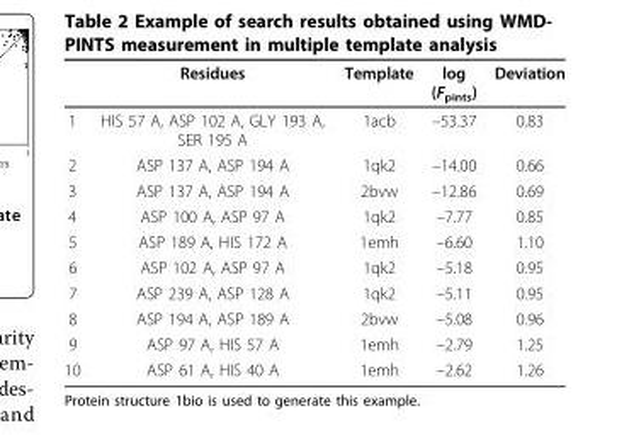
<table><thead><tr><td></td><td>Residues</td><td>Template</td><td>log (F<sub>pints</sub>)</td><td>Deviation</td></tr></thead><tbody><tr><td>1</td><td>HIS 57 A, ASP 102 A, GLY 193 A, SER 195 A</td><td>1acb</td><td>–53.37</td><td>0.83</td></tr><tr><td>2</td><td>ASP 137 A, ASP 194 A</td><td>1qk2</td><td>–14.00</td><td>0.66</td></tr><tr><td>3</td><td>ASP 137 A, ASP 194 A</td><td>2bvw</td><td>–12.86</td><td>0.69</td></tr><tr><td>4</td><td>ASP 100 A, ASP 97 A</td><td>1qk2</td><td>–7.77</td><td>0.85</td></tr><tr><td>5</td><td>ASP 189 A, HIS 172 A</td><td>1emh</td><td>–6.60</td><td>1.10</td></tr><tr><td>6</td><td>ASP 102 A, ASP 97 A</td><td>1qk2</td><td>–5.18</td><td>0.95</td></tr><tr><td>7</td><td>ASP 239 A, ASP 128 A</td><td>1qk2</td><td>–5.11</td><td>0.95</td></tr><tr><td>8</td><td>ASP 194 A, ASP 189 A</td><td>2bvw</td><td>–5.08</td><td>0.96</td></tr><tr><td>9</td><td>ASP 97 A, HIS 57 A</td><td>1emh</td><td>–2.79</td><td>1.25</td></tr><tr><td>10</td><td>ASP 61 A, HIS 40 A</td><td>1emh</td><td>–2.62</td><td>1.26</td></tr></tbody></table>